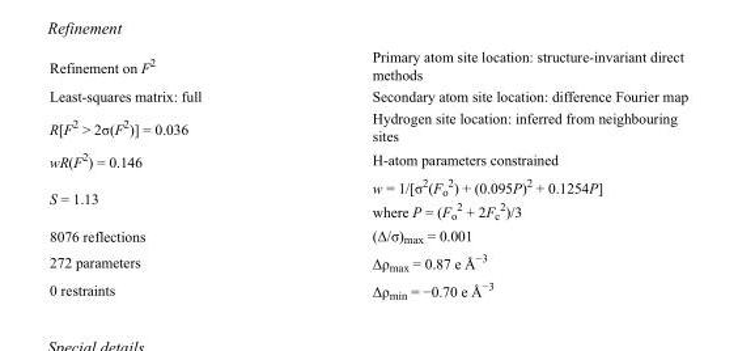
<table><tbody><tr><td>Refinement on F<sup>2</sup></td><td>Primary atom site location: structure-invariant direct methods</td></tr><tr><td>Least-squares matrix: full</td><td>Secondary atom site location: difference Fourier map</td></tr><tr><td>R[F<sup>2</sup> &gt; 2σ(F<sup>2</sup>)] = 0.036</td><td>Hydrogen site location: inferred from neighbouring sites</td></tr><tr><td>wR(F<sup>2</sup>) = 0.146</td><td>H-atom parameters constrained</td></tr><tr><td>S = 1.13</td><td>w = 1/[σ<sup>2</sup>(F<sub>o</sub> <sup>2</sup>) + (0.095P)<sup>2</sup> + 0.1254P] where P = (F<sub>o</sub> <sup>2</sup> + 2F<sub>c</sub> <sup>2</sup>)/3</td></tr><tr><td>8076 reflections</td><td>(Δ/σ)<sub>max</sub> = 0.001</td></tr><tr><td>272 parameters</td><td>Δρ<sub>max</sub> = 0.87 e Å<sup>−3</sup></td></tr><tr><td>0 restraints</td><td>Δρ<sub>min</sub> = −0.70 e Å<sup>−3</sup></td></tr></tbody></table>